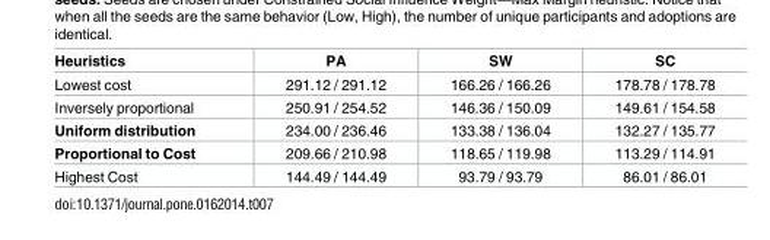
<table><thead><tr><td>Heuristics</td><td>PA</td><td>SW</td><td>SC</td></tr></thead><tbody><tr><td>Lowest cost</td><td>291.12 / 291.12</td><td>166.26 / 166.26</td><td>178.78 / 178.78</td></tr><tr><td>Inversely proportional</td><td>250.91 / 254.52</td><td>146.36 / 150.09</td><td>149.61 / 154.58</td></tr><tr><td>Uniform distribution</td><td>234.00 / 236.46</td><td>133.38 / 136.04</td><td>132.27 / 135.77</td></tr><tr><td>Proportional to Cost</td><td>209.66 / 210.98</td><td>118.65 / 119.98</td><td>113.29 / 114.91</td></tr><tr><td>Highest Cost</td><td>144.49 / 144.49</td><td>93.79 / 93.79</td><td>86.01 / 86.01</td></tr></tbody></table>